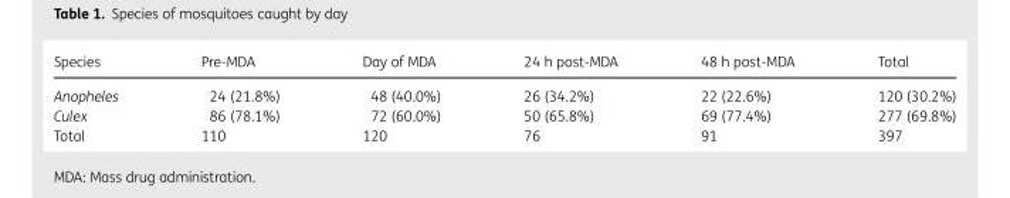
<table><thead><tr><td>Species</td><td>Pre-MDA</td><td>Day of MDA</td><td>24 h post-MDA</td><td>48 h post-MDA</td><td>Total</td></tr></thead><tbody><tr><td>Anopheles</td><td>24 (21.8%)</td><td>48 (40.0%)</td><td>26 (34.2%)</td><td>22 (22.6%)</td><td>120 (30.2%)</td></tr><tr><td>Culex</td><td>86 (78.1%)</td><td>72 (60.0%)</td><td>50 (65.8%)</td><td>69 (77.4%)</td><td>277 (69.8%)</td></tr><tr><td>Total</td><td>110</td><td>120</td><td>76</td><td>91</td><td>397</td></tr></tbody></table>